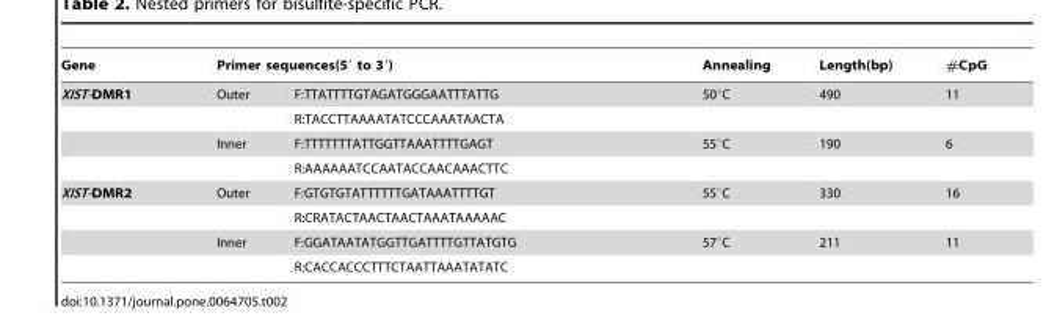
<table><thead><tr><td rowspan="2">Gene XIST-DMR1</td><td colspan="2">Primer sequences(5′ to 3′)</td><td rowspan="2">Annealing 50°C</td><td rowspan="2">Length(bp) 490</td><td rowspan="2">#CpG 11</td></tr><tr><td>Outer</td><td>F:TTATTTTGTAGATGGGAATTTATTG</td></tr></thead><tbody><tr><td></td><td></td><td>R:TACCTTAAAATATCCCAAATAACTA</td><td></td><td></td><td></td></tr><tr><td></td><td>Inner</td><td>F:TTTTTTTATTGGTTAAATTTTGAGT</td><td>55°C</td><td>190</td><td>6</td></tr><tr><td></td><td></td><td>R:AAAAAATCCAATACCAACAAACTTC</td><td></td><td></td><td></td></tr><tr><td rowspan="4">XIST-DMR2</td><td>Outer</td><td>F:GTGTGTATTTTTTGATAAATTTTGT</td><td>55°C</td><td>330</td><td>16</td></tr><tr><td></td><td>R:CRATACTAACTAACTAAATAAAAAC</td><td></td><td></td><td></td></tr><tr><td>Inner</td><td>F:GGATAATATGGTTGATTTTGTTATGTG</td><td>57°C</td><td>211</td><td>11</td></tr><tr><td></td><td>R:CACCACCCTTTCTAATTAAATATATC</td><td></td><td></td><td></td></tr></tbody></table>